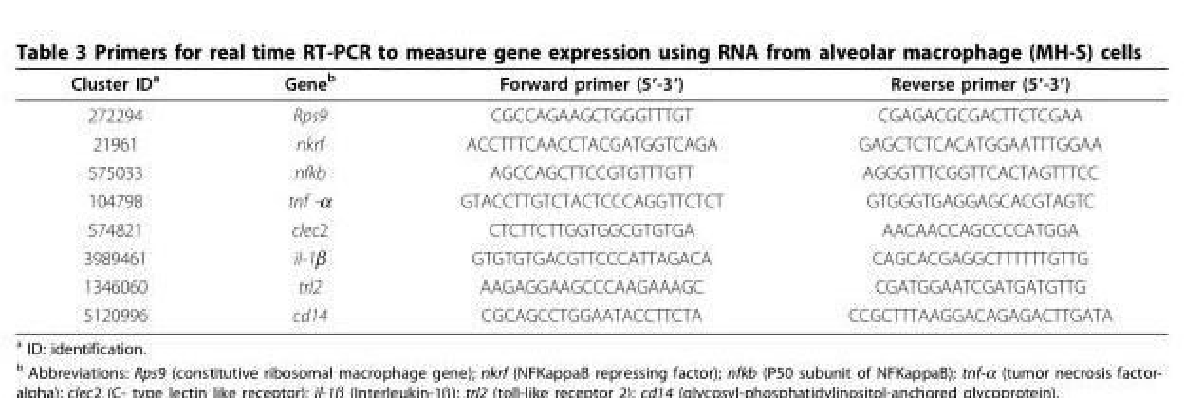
<table><thead><tr><td>Cluster ID<sup>a</sup></td><td>Gene<sup>b</sup></td><td>Forward primer (5′-3′)</td><td>Reverse primer (5′-3′)</td></tr></thead><tbody><tr><td>272294</td><td>Rps9</td><td>CGCCAGAAGCTGGGTTTGT</td><td>CGAGACGCGACTTCTCGAA</td></tr><tr><td>21961</td><td>nkrf</td><td>ACCTTTCAACCTACGATGGTCAGA</td><td>GAGCTCTCACATGGAATTTGGAA</td></tr><tr><td>575033</td><td>nfkb</td><td>AGCCAGCTTCCGTGTTTGTT</td><td>AGGGTTTCGGTTCACTAGTTTCC</td></tr><tr><td>104798</td><td>tnf -α</td><td>GTACCTTGTCTACTCCCAGGTTCTCT</td><td>GTGGGTGAGGAGCACGTAGTC</td></tr><tr><td>574821</td><td>clec2</td><td>CTCTTCTTGGTGGCGTGTGA</td><td>AACAACCAGCCCCATGGA</td></tr><tr><td>3989461</td><td>il-1β</td><td>GTGTGTGACGTTCCCATTAGACA</td><td>CAGCACGAGGCTTTTTTGTTG</td></tr><tr><td>1346060</td><td>trl2</td><td>AAGAGGAAGCCCAAGAAAGC</td><td>CGATGGAATCGATGATGTTG</td></tr><tr><td>5120996</td><td>cd14</td><td>CGCAGCCTGGAATACCTTCTA</td><td>CCGCTTTAAGGACAGAGACTTGATA</td></tr></tbody></table>